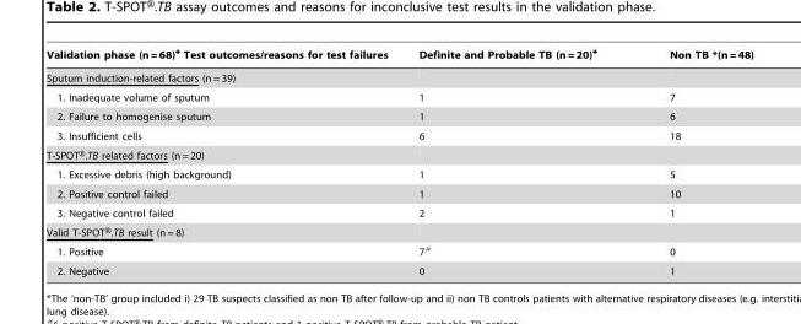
<table><thead><tr><td>Validation phase (n = 68)+ Test outcomes/reasons for test failures</td><td>Definite and Probable TB (n = 20)+</td><td>Non TB *(n = 48)</td></tr></thead><tbody><tr><td colspan="3">Sputum induction-related factors (n = 39)</td></tr><tr><td>1. Inadequate volume of sputum</td><td>1</td><td>7</td></tr><tr><td>2. Failure to homogenise sputum</td><td>1</td><td>6</td></tr><tr><td>3. Insufficient cells</td><td>6</td><td>18</td></tr><tr><td colspan="3">T-SPOT®.TB related factors (n = 20)</td></tr><tr><td>1. Excessive debris (high background)</td><td>1</td><td>5</td></tr><tr><td>2. Positive control failed</td><td>1</td><td>10</td></tr><tr><td>3. Negative control failed</td><td>2</td><td>1</td></tr><tr><td colspan="3">Valid T-SPOT®.TB result (n = 8)</td></tr><tr><td>1. Positive</td><td>7#</td><td>0</td></tr><tr><td>2. Negative</td><td>0</td><td>1</td></tr></tbody></table>